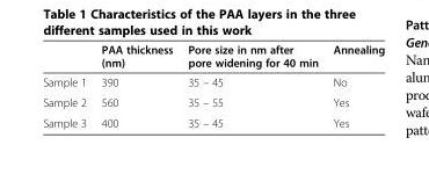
<table><thead><tr><td></td><td>PAA thickness (nm)</td><td>Pore size in nm after pore widening for 40 min</td><td>Annealing</td></tr></thead><tbody><tr><td>Sample 1</td><td>390</td><td>35 – 45</td><td>No</td></tr><tr><td>Sample 2</td><td>560</td><td>35 – 55</td><td>Yes</td></tr><tr><td>Sample 3</td><td>400</td><td>35 – 45</td><td>Yes</td></tr></tbody></table>